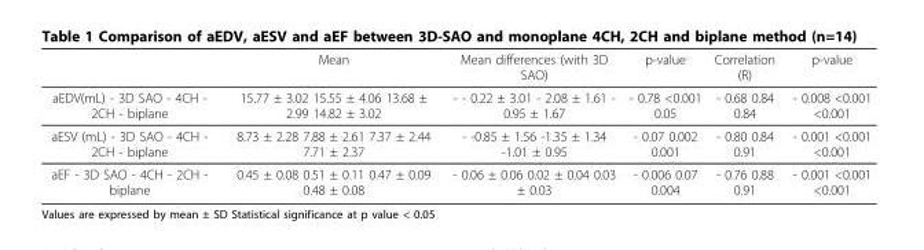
<table><thead><tr><td></td><td>Mean</td><td>Mean differences (with 3D SAO)</td><td>p-value</td><td>Correlation (R)</td><td>p-value</td></tr></thead><tbody><tr><td>aEDV(mL) - 3D SAO - 4CH - 2CH - biplane</td><td>15.77 ± 3.02 15.55 ± 4.06 13.68 ± 2.99 14.82 ± 3.02</td><td>- - 0.22 ± 3.01 - 2.08 ± 1.61 - 0.95 ± 1.67</td><td>- 0.78 &lt;0.001 0.05</td><td>- 0.68 0.84 0.84</td><td>- 0.008 &lt;0.001 &lt;0.001</td></tr><tr><td>aESV (mL) - 3D SAO - 4CH - 2CH - biplane</td><td>8.73 ± 2.28 7.88 ± 2.61 7.37 ± 2.44 7.71 ± 2.37</td><td>- -0.85 ± 1.56 -1.35 ± 1.34 -1.01 ± 0.95</td><td>- 0.07 0.002 0.001</td><td>- 0.80 0.84 0.91</td><td>- 0.001 &lt;0.001 &lt;0.001</td></tr><tr><td>aEF - 3D SAO - 4CH - 2CH - biplane</td><td>0.45 ± 0.08 0.51 ± 0.11 0.47 ± 0.09 0.48 ± 0.08</td><td>- 0.06 ± 0.06 0.02 ± 0.04 0.03 ± 0.03</td><td>- 0.006 0.07 0.004</td><td>- 0.76 0.88 0.91</td><td>- 0.001 &lt;0.001 &lt;0.001</td></tr></tbody></table>